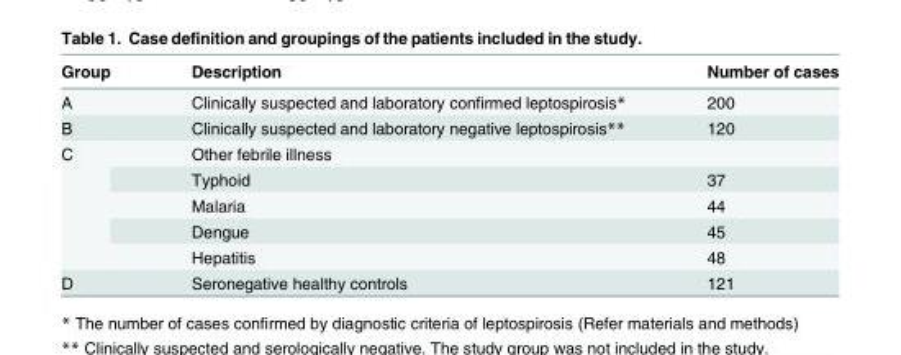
<table><thead><tr><td>Group</td><td>Description</td><td>Number of cases</td></tr></thead><tbody><tr><td>A</td><td>Clinically suspected and laboratory confirmed leptospirosis*</td><td>200</td></tr><tr><td>B</td><td>Clinically suspected and laboratory negative leptospirosis**</td><td>120</td></tr><tr><td rowspan="5">C</td><td>Other febrile illness</td><td></td></tr><tr><td>Typhoid</td><td>37</td></tr><tr><td>Malaria</td><td>44</td></tr><tr><td>Dengue</td><td>45</td></tr><tr><td>Hepatitis</td><td>48</td></tr><tr><td>D</td><td>Seronegative healthy controls</td><td>121</td></tr></tbody></table>